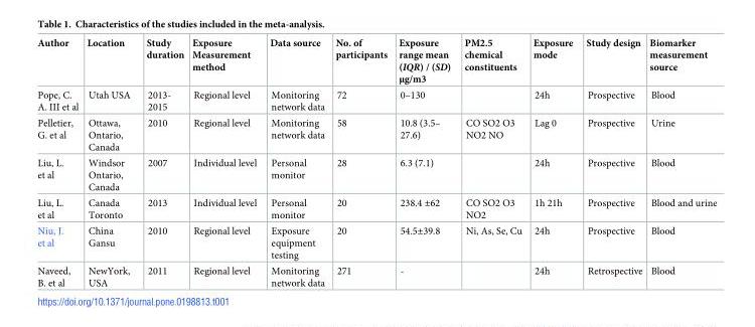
<table><thead><tr><td>Author</td><td>Location</td><td>Study duration</td><td>Exposure Measurement method</td><td>Data source</td><td>No. of participants</td><td>Exposure range mean (IQR) / (SD) μg/m3</td><td>PM2.5 chemical constituents</td><td>Exposure mode</td><td>Study design</td><td>Biomarker measurement source</td></tr></thead><tbody><tr><td>Pope, C. A. III et al</td><td>Utah USA</td><td>2013- 2015</td><td>Regional level</td><td>Monitoring network data</td><td>72</td><td>0–130</td><td></td><td>24h</td><td>Prospective</td><td>Blood</td></tr><tr><td>Pelletier, G. et al</td><td>Ottawa, Ontario, Canada</td><td>2010</td><td>Regional level</td><td>Monitoring network data</td><td>58</td><td>10.8 (3.5– 27.6)</td><td>CO SO2 O3 NO2 NO</td><td>Lag 0</td><td>Prospective</td><td>Urine</td></tr><tr><td>Liu, L. et al</td><td>Windsor Ontario, Canada</td><td>2007</td><td>Individual level</td><td>Personal monitor</td><td>28</td><td>6.3 (7.1)</td><td></td><td>24h</td><td>Prospective</td><td>Blood</td></tr><tr><td>Liu, L. et al</td><td>Canada Toronto</td><td>2013</td><td>Individual level</td><td>Personal monitor</td><td>20</td><td>238.4 ±62</td><td>CO SO2 O3 NO2</td><td>1h 21h</td><td>Prospective</td><td>Blood and urine</td></tr><tr><td>Niu, J. et al</td><td>China Gansu</td><td>2010</td><td>Regional level</td><td>Exposure equipment testing</td><td>20</td><td>54.5±39.8</td><td>Ni, As, Se, Cu</td><td>24h</td><td>Prospective</td><td>Blood</td></tr><tr><td>Naveed, B. et al</td><td>NewYork, USA</td><td>2011</td><td>Regional level</td><td>Monitoring network data</td><td>271</td><td>-</td><td></td><td>24h</td><td>Retrospective</td><td>Blood</td></tr></tbody></table>